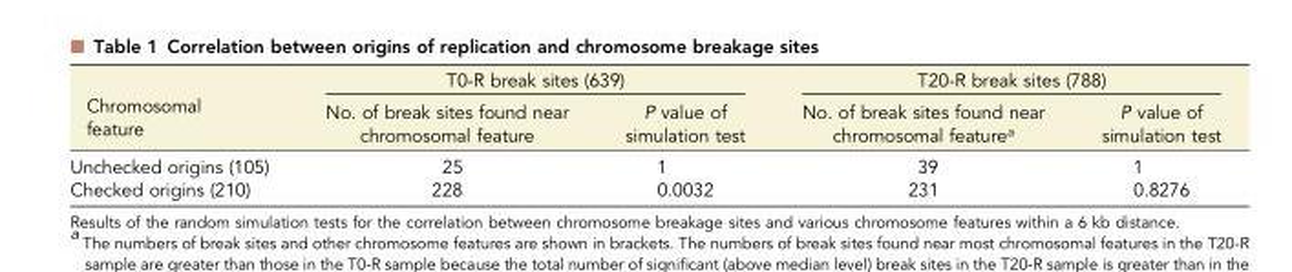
<table><thead><tr><td rowspan="2">Chromosomal feature</td><td colspan="2">T0-R break sites (639)</td><td colspan="2">T20-R break sites (788)</td></tr><tr><td>No. of break sites found near chromosomal feature</td><td>P value of simulation test</td><td>No. of break sites found near chromosomal feature<sup>a</sup></td><td>P value of simulation test</td></tr></thead><tbody><tr><td>Unchecked origins (105)</td><td>25</td><td>1</td><td>39</td><td>1</td></tr><tr><td>Checked origins (210)</td><td>228</td><td>0.0032</td><td>231</td><td>0.8276</td></tr></tbody></table>